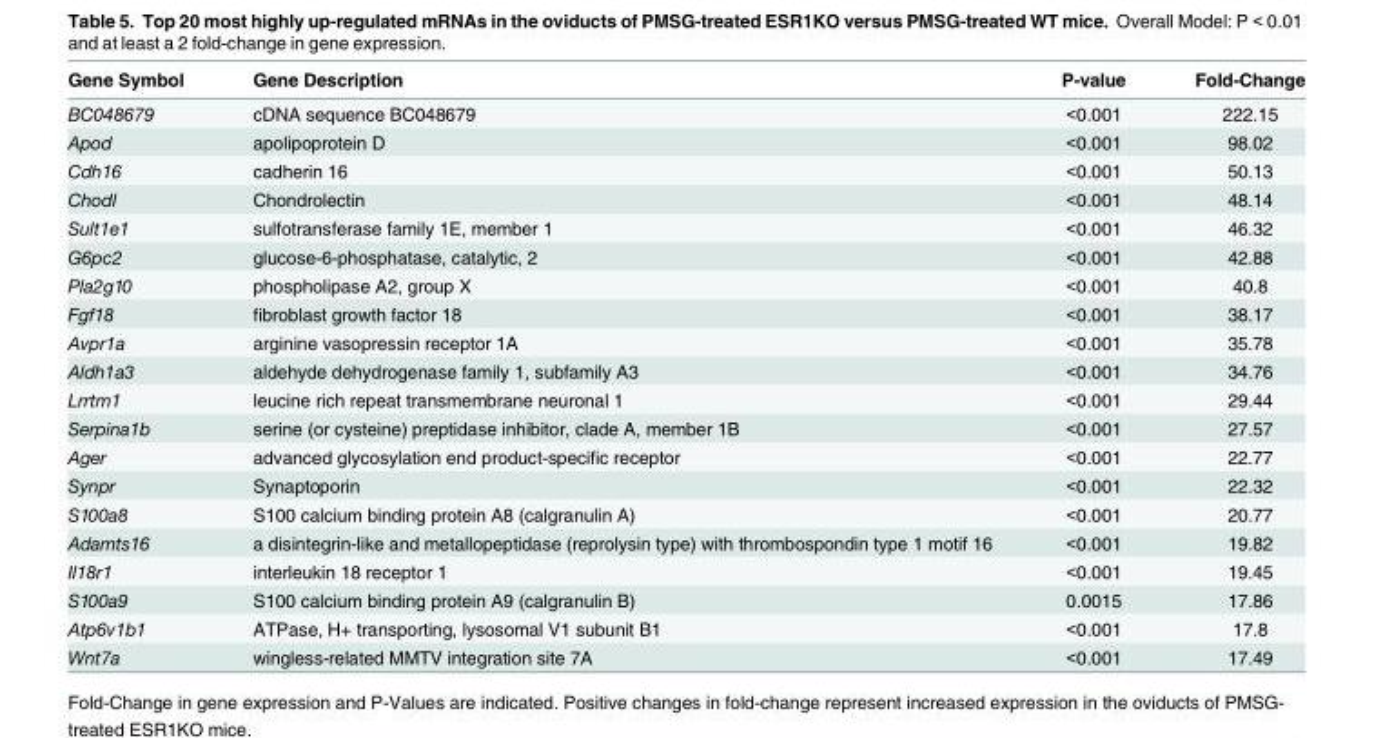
<table><thead><tr><td>Gene Symbol</td><td>Gene Description</td><td>P-value</td><td>Fold-Change</td></tr></thead><tbody><tr><td>BC048679</td><td>cDNA sequence BC048679</td><td>&lt;0.001</td><td>222.15</td></tr><tr><td>Apod</td><td>apolipoprotein D</td><td>&lt;0.001</td><td>98.02</td></tr><tr><td>Cdh16</td><td>cadherin 16</td><td>&lt;0.001</td><td>50.13</td></tr><tr><td>Chodl</td><td>Chondrolectin</td><td>&lt;0.001</td><td>48.14</td></tr><tr><td>Sult1e1</td><td>sulfotransferase family 1E, member 1</td><td>&lt;0.001</td><td>46.32</td></tr><tr><td>G6pc2</td><td>glucose-6-phosphatase, catalytic, 2</td><td>&lt;0.001</td><td>42.88</td></tr><tr><td>Pla2g10</td><td>phospholipase A2, group X</td><td>&lt;0.001</td><td>40.8</td></tr><tr><td>Fgf18</td><td>fibroblast growth factor 18</td><td>&lt;0.001</td><td>38.17</td></tr><tr><td>Avpr1a</td><td>arginine vasopressin receptor 1A</td><td>&lt;0.001</td><td>35.78</td></tr><tr><td>Aldh1a3</td><td>aldehyde dehydrogenase family 1, subfamily A3</td><td>&lt;0.001</td><td>34.76</td></tr><tr><td>Lrrtm1</td><td>leucine rich repeat transmembrane neuronal 1</td><td>&lt;0.001</td><td>29.44</td></tr><tr><td>Serpina1b</td><td>serine (or cysteine) preptidase inhibitor, clade A, member 1B</td><td>&lt;0.001</td><td>27.57</td></tr><tr><td>Ager</td><td>advanced glycosylation end product-specific receptor</td><td>&lt;0.001</td><td>22.77</td></tr><tr><td>Synpr</td><td>Synaptoporin</td><td>&lt;0.001</td><td>22.32</td></tr><tr><td>S100a8</td><td>S100 calcium binding protein A8 (calgranulin A)</td><td>&lt;0.001</td><td>20.77</td></tr><tr><td>Adamts16</td><td>a disintegrin-like and metallopeptidase (reprolysin type) with thrombospondin type 1 motif 16</td><td>&lt;0.001</td><td>19.82</td></tr><tr><td>Il18r1</td><td>interleukin 18 receptor 1</td><td>&lt;0.001</td><td>19.45</td></tr><tr><td>S100a9</td><td>S100 calcium binding protein A9 (calgranulin B)</td><td>0.0015</td><td>17.86</td></tr><tr><td>Atp6v1b1</td><td>ATPase, H+ transporting, lysosomal V1 subunit B1</td><td>&lt;0.001</td><td>17.8</td></tr><tr><td>Wnt7a</td><td>wingless-related MMTV integration site 7A</td><td>&lt;0.001</td><td>17.49</td></tr></tbody></table>